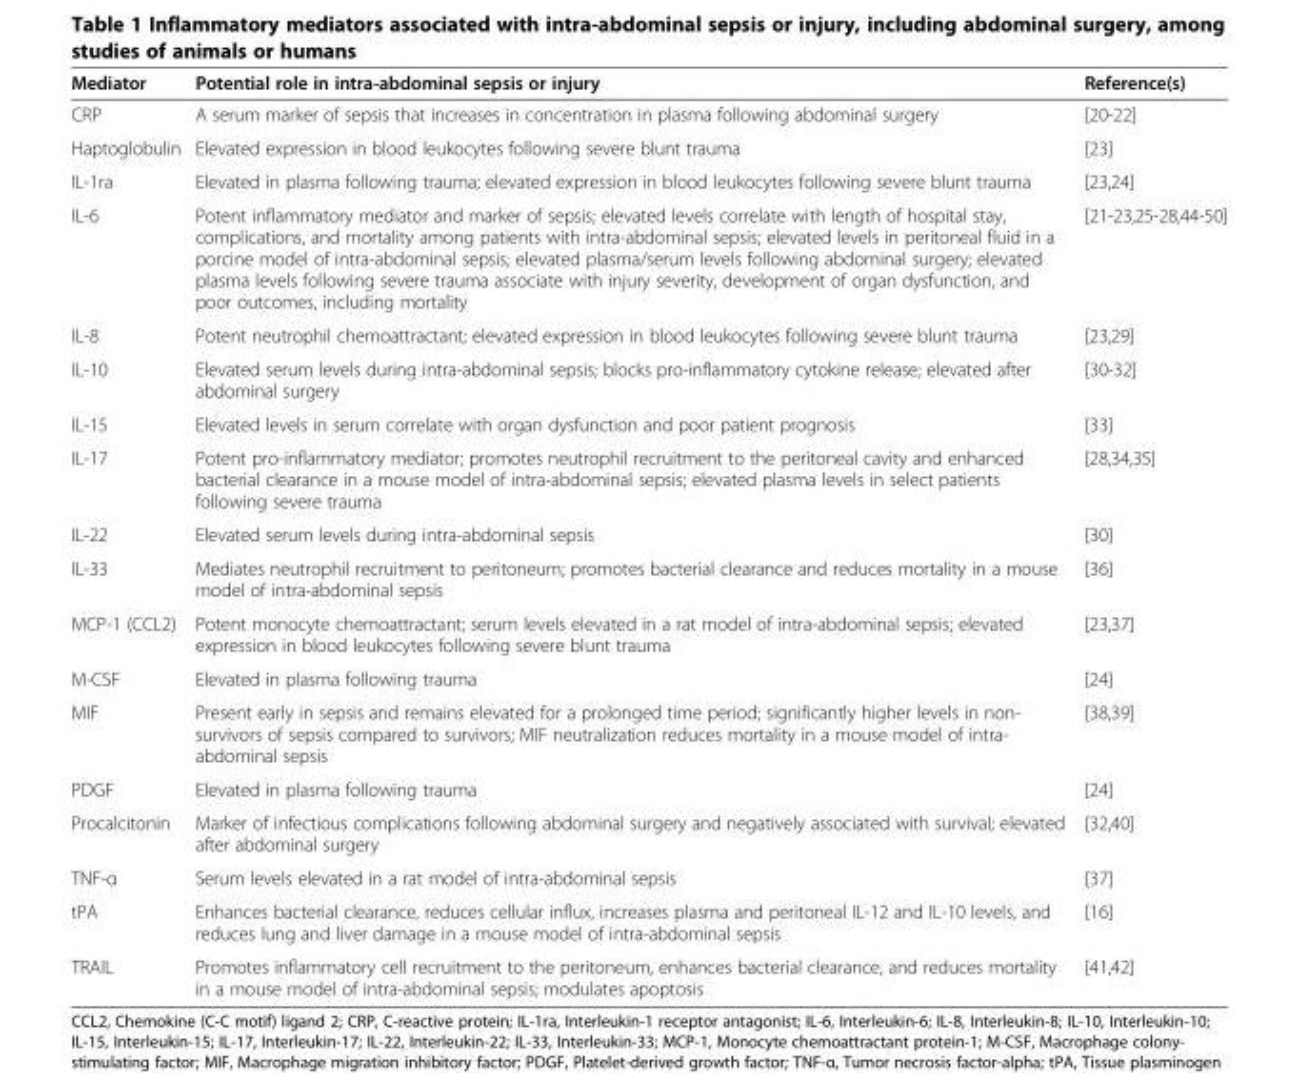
<table><thead><tr><td>Mediator</td><td>Potential role in intra-abdominal sepsis or injury</td><td>Reference(s)</td></tr></thead><tbody><tr><td>CRP</td><td>A serum marker of sepsis that increases in concentration in plasma following abdominal surgery</td><td>[20-22]</td></tr><tr><td>Haptoglobulin</td><td>Elevated expression in blood leukocytes following severe blunt trauma</td><td>[23]</td></tr><tr><td>IL-1ra</td><td>Elevated in plasma following trauma; elevated expression in blood leukocytes following severe blunt trauma</td><td>[23,24]</td></tr><tr><td>IL-6</td><td>Potent inflammatory mediator and marker of sepsis; elevated levels correlate with length of hospital stay, complications, and mortality among patients with intra-abdominal sepsis; elevated levels in peritoneal fluid in a porcine model of intra-abdominal sepsis; elevated plasma/serum levels following abdominal surgery; elevated plasma levels following severe trauma associate with injury severity, development of organ dysfunction, and poor outcomes, including mortality</td><td>[21-23,25-28,44-50]</td></tr><tr><td>IL-8</td><td>Potent neutrophil chemoattractant; elevated expression in blood leukocytes following severe blunt trauma</td><td>[23,29]</td></tr><tr><td>IL-10</td><td>Elevated serum levels during intra-abdominal sepsis; blocks pro-inflammatory cytokine release; elevated after abdominal surgery</td><td>[30-32]</td></tr><tr><td>IL-15</td><td>Elevated levels in serum correlate with organ dysfunction and poor patient prognosis</td><td>[33]</td></tr><tr><td>IL-17</td><td>Potent pro-inflammatory mediator; promotes neutrophil recruitment to the peritoneal cavity and enhanced bacterial clearance in a mouse model of intra-abdominal sepsis; elevated plasma levels in select patients following severe trauma</td><td>[28,34,35]</td></tr><tr><td>IL-22</td><td>Elevated serum levels during intra-abdominal sepsis</td><td>[30]</td></tr><tr><td>IL-33</td><td>Mediates neutrophil recruitment to peritoneum; promotes bacterial clearance and reduces mortality in a mouse model of intra-abdominal sepsis</td><td>[36]</td></tr><tr><td>MCP-1 (CCL2)</td><td>Potent monocyte chemoattractant; serum levels elevated in a rat model of intra-abdominal sepsis; elevated expression in blood leukocytes following severe blunt trauma</td><td>[23,37]</td></tr><tr><td>M-CSF</td><td>Elevated in plasma following trauma</td><td>[24]</td></tr><tr><td>MIF</td><td>Present early in sepsis and remains elevated for a prolonged time period; significantly higher levels in non- survivors of sepsis compared to survivors; MIF neutralization reduces mortality in a mouse model of intra- abdominal sepsis</td><td>[38,39]</td></tr><tr><td>PDGF</td><td>Elevated in plasma following trauma</td><td>[24]</td></tr><tr><td>Procalcitonin</td><td>Marker of infectious complications following abdominal surgery and negatively associated with survival; elevated after abdominal surgery</td><td>[32,40]</td></tr><tr><td>TNF-α</td><td>Serum levels elevated in a rat model of intra-abdominal sepsis</td><td>[37]</td></tr><tr><td>tPA</td><td>Enhances bacterial clearance, reduces cellular influx, increases plasma and peritoneal IL-12 and IL-10 levels, and reduces lung and liver damage in a mouse model of intra-abdominal sepsis</td><td>[16]</td></tr><tr><td>TRAIL</td><td>Promotes inflammatory cell recruitment to the peritoneum, enhances bacterial clearance, and reduces mortality in a mouse model of intra-abdominal sepsis; modulates apoptosis</td><td>[41,42]</td></tr></tbody></table>